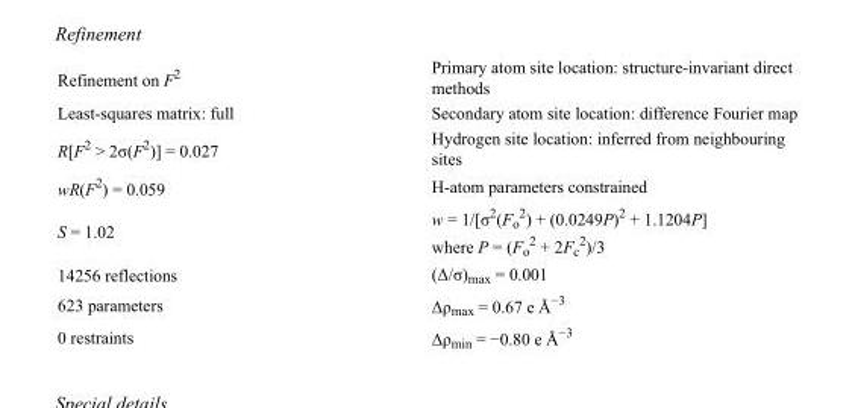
<table><tbody><tr><td>Refinement on F<sup>2</sup></td><td>Primary atom site location: structure-invariant direct methods</td></tr><tr><td>Least-squares matrix: full</td><td>Secondary atom site location: difference Fourier map</td></tr><tr><td>R[F<sup>2</sup> &gt; 2σ(F<sup>2</sup>)] = 0.027</td><td>Hydrogen site location: inferred from neighbouring sites</td></tr><tr><td>wR(F<sup>2</sup>) = 0.059</td><td>H-atom parameters constrained</td></tr><tr><td>S = 1.02</td><td>w = 1/[σ<sup>2</sup>(F<sub>o</sub> <sup>2</sup>) + (0.0249P)<sup>2</sup> + 1.1204P] where P = (F<sub>o</sub> <sup>2</sup> + 2F<sub>c</sub> <sup>2</sup>)/3</td></tr><tr><td>14256 reflections</td><td>(Δ/σ)<sub>max</sub> = 0.001</td></tr><tr><td>623 parameters</td><td>Δρ<sub>max</sub> = 0.67 e Å<sup>−3</sup></td></tr><tr><td>0 restraints</td><td>Δρ<sub>min</sub> = −0.80 e Å<sup>−3</sup></td></tr></tbody></table>